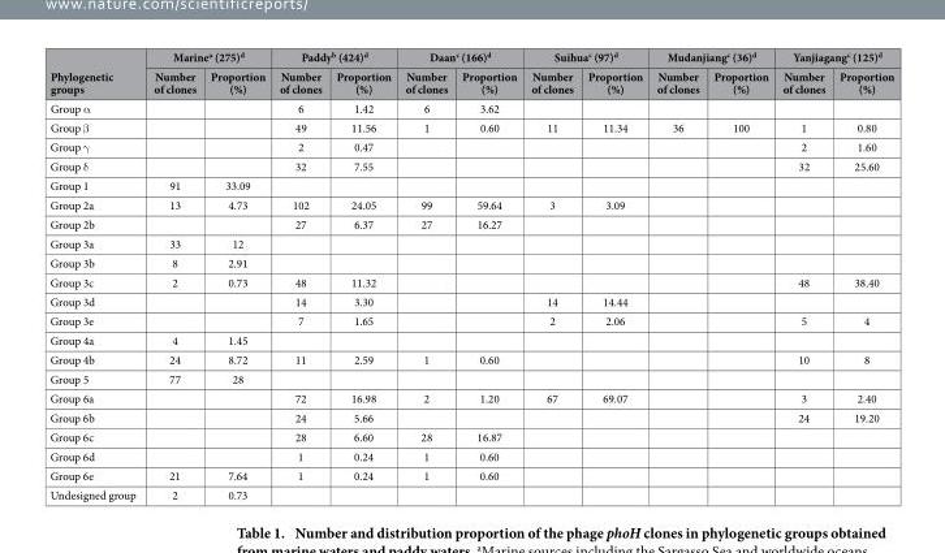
<table><thead><tr><td rowspan="2">Phylogenetic groups</td><td colspan="2">Marine<sup>a</sup> (275)<sup>d</sup></td><td colspan="2">Paddy<sup>b</sup> (424)<sup>d</sup></td><td colspan="2">Daan<sup>c</sup> (166)<sup>d</sup></td><td colspan="2">Suihua<sup>c</sup> (97)<sup>d</sup></td><td colspan="2">Mudanjiang<sup>c</sup> (36)<sup>d</sup></td><td colspan="2">Yanjiagang<sup>c</sup> (125)<sup>d</sup></td></tr><tr><td>Number of clones</td><td>Proportion (%)</td><td>Number of clones</td><td>Proportion (%)</td><td>Number of clones</td><td>Proportion (%)</td><td>Number of clones</td><td>Proportion (%)</td><td>Number of clones</td><td>Proportion (%)</td><td>Number of clones</td><td>Proportion (%)</td></tr></thead><tbody><tr><td>Group α</td><td></td><td></td><td>6</td><td>1.42</td><td>6</td><td>3.62</td><td></td><td></td><td></td><td></td><td></td><td></td></tr><tr><td>Group β</td><td></td><td></td><td>49</td><td>11.56</td><td>1</td><td>0.60</td><td>11</td><td>11.34</td><td>36</td><td>100</td><td>1</td><td>0.80</td></tr><tr><td>Group γ</td><td></td><td></td><td>2</td><td>0.47</td><td></td><td></td><td></td><td></td><td></td><td></td><td>2</td><td>1.60</td></tr><tr><td>Group δ</td><td></td><td></td><td>32</td><td>7.55</td><td></td><td></td><td></td><td></td><td></td><td></td><td>32</td><td>25.60</td></tr><tr><td>Group 1</td><td>91</td><td>33.09</td><td></td><td></td><td></td><td></td><td></td><td></td><td></td><td></td><td></td><td></td></tr><tr><td>Group 2a</td><td>13</td><td>4.73</td><td>102</td><td>24.05</td><td>99</td><td>59.64</td><td>3</td><td>3.09</td><td></td><td></td><td></td><td></td></tr><tr><td>Group 2b</td><td></td><td></td><td>27</td><td>6.37</td><td>27</td><td>16.27</td><td></td><td></td><td></td><td></td><td></td><td></td></tr><tr><td>Group 3a</td><td>33</td><td>12</td><td></td><td></td><td></td><td></td><td></td><td></td><td></td><td></td><td></td><td></td></tr><tr><td>Group 3b</td><td>8</td><td>2.91</td><td></td><td></td><td></td><td></td><td></td><td></td><td></td><td></td><td></td><td></td></tr><tr><td>Group 3c</td><td>2</td><td>0.73</td><td>48</td><td>11.32</td><td></td><td></td><td></td><td></td><td></td><td></td><td>48</td><td>38.40</td></tr><tr><td>Group 3d</td><td></td><td></td><td>14</td><td>3.30</td><td></td><td></td><td>14</td><td>14.44</td><td></td><td></td><td></td><td></td></tr><tr><td>Group 3e</td><td></td><td></td><td>7</td><td>1.65</td><td></td><td></td><td>2</td><td>2.06</td><td></td><td></td><td>5</td><td>4</td></tr><tr><td>Group 4a</td><td>4</td><td>1.45</td><td></td><td></td><td></td><td></td><td></td><td></td><td></td><td></td><td></td><td></td></tr><tr><td>Group 4b</td><td>24</td><td>8.72</td><td>11</td><td>2.59</td><td>1</td><td>0.60</td><td></td><td></td><td></td><td></td><td>10</td><td>8</td></tr><tr><td>Group 5</td><td>77</td><td>28</td><td></td><td></td><td></td><td></td><td></td><td></td><td></td><td></td><td></td><td></td></tr><tr><td>Group 6a</td><td></td><td></td><td>72</td><td>16.98</td><td>2</td><td>1.20</td><td>67</td><td>69.07</td><td></td><td></td><td>3</td><td>2.40</td></tr><tr><td>Group 6b</td><td></td><td></td><td>24</td><td>5.66</td><td></td><td></td><td></td><td></td><td></td><td></td><td>24</td><td>19.20</td></tr><tr><td>Group 6c</td><td></td><td></td><td>28</td><td>6.60</td><td>28</td><td>16.87</td><td></td><td></td><td></td><td></td><td></td><td></td></tr><tr><td>Group 6d</td><td></td><td></td><td>1</td><td>0.24</td><td>1</td><td>0.60</td><td></td><td></td><td></td><td></td><td></td><td></td></tr><tr><td>Group 6e</td><td>21</td><td>7.64</td><td>1</td><td>0.24</td><td>1</td><td>0.60</td><td></td><td></td><td></td><td></td><td></td><td></td></tr><tr><td>Undesigned group</td><td>2</td><td>0.73</td><td></td><td></td><td></td><td></td><td></td><td></td><td></td><td></td><td></td><td></td></tr></tbody></table>